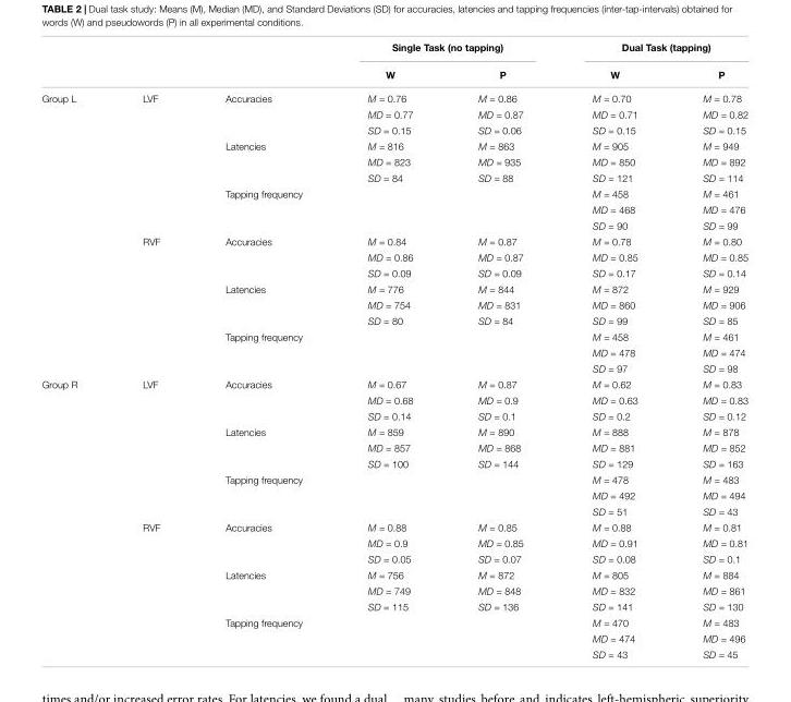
<table><thead><tr><td rowspan="2"></td><td rowspan="2"></td><td rowspan="2"></td><td colspan="2">Single Task (no tapping)</td><td colspan="2">Dual Task (tapping)</td></tr><tr><td>W</td><td>P</td><td>W</td><td>P</td></tr></thead><tbody><tr><td rowspan="18">Group L</td><td>LVF</td><td>Accuracies</td><td>M = 0.76</td><td>M = 0.86</td><td>M = 0.70</td><td>M = 0.78</td></tr><tr><td></td><td></td><td>MD = 0.77</td><td>MD = 0.87</td><td>MD = 0.71</td><td>MD = 0.82</td></tr><tr><td></td><td></td><td>SD = 0.15</td><td>SD = 0.06</td><td>SD = 0.15</td><td>SD = 0.15</td></tr><tr><td></td><td>Latencies</td><td>M = 816</td><td>M = 863</td><td>M = 905</td><td>M = 949</td></tr><tr><td></td><td></td><td>MD = 823</td><td>MD = 935</td><td>MD = 850</td><td>MD = 892</td></tr><tr><td></td><td></td><td>SD = 84</td><td>SD = 88</td><td>SD = 121</td><td>SD = 114</td></tr><tr><td></td><td>Tapping frequency</td><td></td><td></td><td>M = 458</td><td>M = 461</td></tr><tr><td></td><td></td><td></td><td></td><td>MD = 468</td><td>MD = 476</td></tr><tr><td></td><td></td><td></td><td></td><td>SD = 90</td><td>SD = 99</td></tr><tr><td>RVF</td><td>Accuracies</td><td>M = 0.84</td><td>M = 0.87</td><td>M = 0.78</td><td>M = 0.80</td></tr><tr><td></td><td></td><td>MD = 0.86</td><td>MD = 0.87</td><td>MD = 0.85</td><td>MD = 0.85</td></tr><tr><td></td><td></td><td>SD = 0.09</td><td>SD = 0.09</td><td>SD = 0.17</td><td>SD = 0.14</td></tr><tr><td></td><td>Latencies</td><td>M = 776</td><td>M = 844</td><td>M = 872</td><td>M = 929</td></tr><tr><td></td><td></td><td>MD = 754</td><td>MD = 831</td><td>MD = 860</td><td>MD = 906</td></tr><tr><td></td><td></td><td>SD = 80</td><td>SD = 84</td><td>SD = 99</td><td>SD = 85</td></tr><tr><td></td><td>Tapping frequency</td><td></td><td></td><td>M = 458</td><td>M = 461</td></tr><tr><td></td><td></td><td></td><td></td><td>MD = 478</td><td>MD = 474</td></tr><tr><td></td><td></td><td></td><td></td><td>SD = 97</td><td>SD = 98</td></tr><tr><td rowspan="18">Group R</td><td>LVF</td><td>Accuracies</td><td>M = 0.67</td><td>M = 0.87</td><td>M = 0.62</td><td>M = 0.83</td></tr><tr><td></td><td></td><td>MD = 0.68</td><td>MD = 0.9</td><td>MD = 0.63</td><td>MD = 0.83</td></tr><tr><td></td><td></td><td>SD = 0.14</td><td>SD = 0.1</td><td>SD = 0.2</td><td>SD = 0.12</td></tr><tr><td></td><td>Latencies</td><td>M = 859</td><td>M = 890</td><td>M = 888</td><td>M = 878</td></tr><tr><td></td><td></td><td>MD = 857</td><td>MD = 868</td><td>MD = 881</td><td>MD = 852</td></tr><tr><td></td><td></td><td>SD = 100</td><td>SD = 144</td><td>SD = 129</td><td>SD = 163</td></tr><tr><td></td><td>Tapping frequency</td><td></td><td></td><td>M = 478</td><td>M = 483</td></tr><tr><td></td><td></td><td></td><td></td><td>MD = 492</td><td>MD = 494</td></tr><tr><td></td><td></td><td></td><td></td><td>SD = 51</td><td>SD = 43</td></tr><tr><td>RVF</td><td>Accuracies</td><td>M = 0.88</td><td>M = 0.85</td><td>M = 0.88</td><td>M = 0.81</td></tr><tr><td></td><td></td><td>MD = 0.9</td><td>MD = 0.85</td><td>MD = 0.91</td><td>MD = 0.81</td></tr><tr><td></td><td></td><td>SD = 0.05</td><td>SD = 0.07</td><td>SD = 0.08</td><td>SD = 0.1</td></tr><tr><td></td><td>Latencies</td><td>M = 756</td><td>M = 872</td><td>M = 805</td><td>M = 884</td></tr><tr><td></td><td></td><td>MD = 749</td><td>MD = 848</td><td>MD = 832</td><td>MD = 861</td></tr><tr><td></td><td></td><td>SD = 115</td><td>SD = 136</td><td>SD = 141</td><td>SD = 130</td></tr><tr><td></td><td>Tapping frequency</td><td></td><td></td><td>M = 470</td><td>M = 483</td></tr><tr><td></td><td></td><td></td><td></td><td>MD = 474</td><td>MD = 496</td></tr><tr><td></td><td></td><td></td><td></td><td>SD = 43</td><td>SD = 45</td></tr></tbody></table>